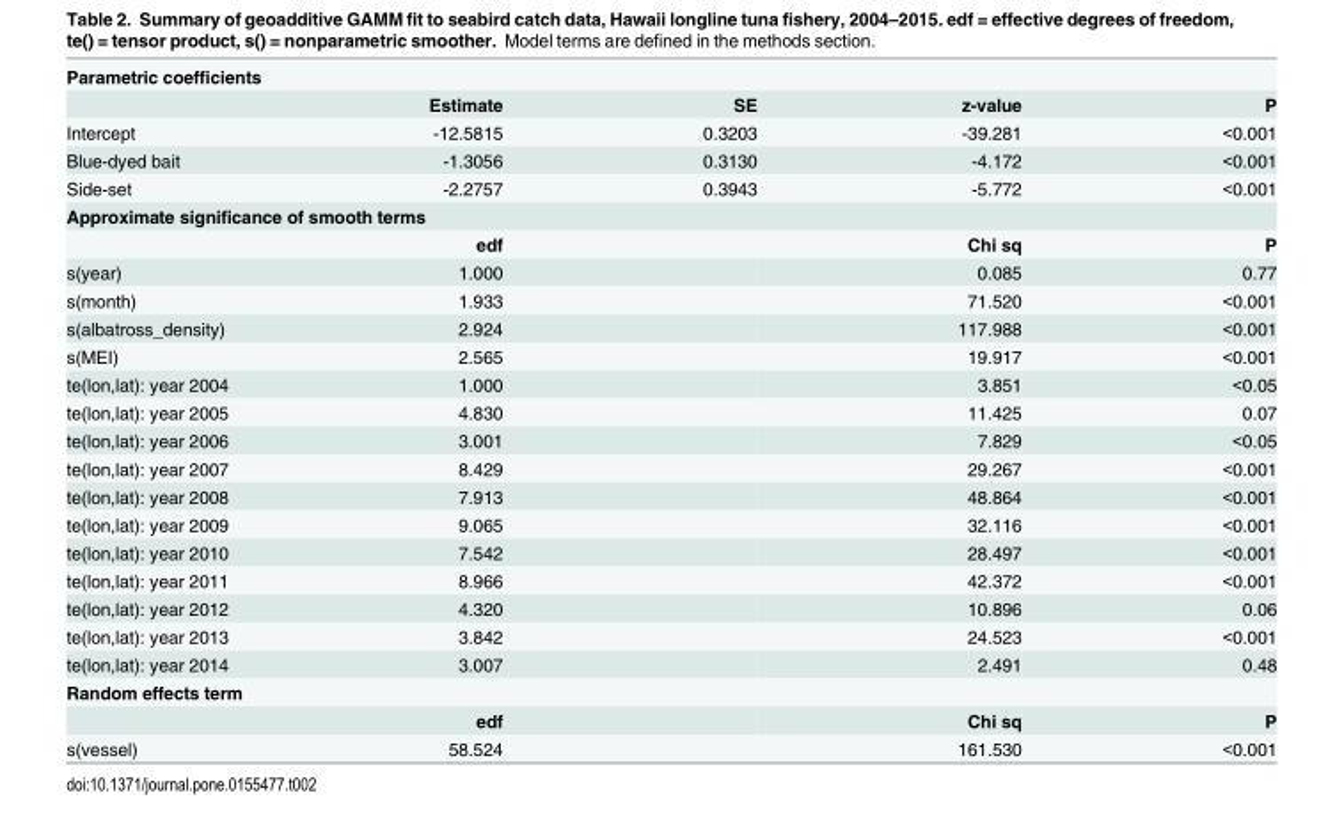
<table><tbody><tr><td colspan="5">Parametric coefficients</td></tr><tr><td></td><td>Estimate</td><td>SE</td><td>z-value</td><td>P</td></tr><tr><td>Intercept</td><td>-12.5815</td><td>0.3203</td><td>-39.281</td><td>&lt;0.001</td></tr><tr><td>Blue-dyed bait</td><td>-1.3056</td><td>0.3130</td><td>-4.172</td><td>&lt;0.001</td></tr><tr><td>Side-set</td><td>-2.2757</td><td>0.3943</td><td>-5.772</td><td>&lt;0.001</td></tr><tr><td colspan="5">Approximate significance of smooth terms</td></tr><tr><td></td><td>edf</td><td></td><td>Chi sq</td><td>P</td></tr><tr><td>s(year)</td><td>1.000</td><td></td><td>0.085</td><td>0.77</td></tr><tr><td>s(month)</td><td>1.933</td><td></td><td>71.520</td><td>&lt;0.001</td></tr><tr><td>s(albatross_density)</td><td>2.924</td><td></td><td>117.988</td><td>&lt;0.001</td></tr><tr><td>s(MEI)</td><td>2.565</td><td></td><td>19.917</td><td>&lt;0.001</td></tr><tr><td>te(lon,lat): year 2004</td><td>1.000</td><td></td><td>3.851</td><td>&lt;0.05</td></tr><tr><td>te(lon,lat): year 2005</td><td>4.830</td><td></td><td>11.425</td><td>0.07</td></tr><tr><td>te(lon,lat): year 2006</td><td>3.001</td><td></td><td>7.829</td><td>&lt;0.05</td></tr><tr><td>te(lon,lat): year 2007</td><td>8.429</td><td></td><td>29.267</td><td>&lt;0.001</td></tr><tr><td>te(lon,lat): year 2008</td><td>7.913</td><td></td><td>48.864</td><td>&lt;0.001</td></tr><tr><td>te(lon,lat): year 2009</td><td>9.065</td><td></td><td>32.116</td><td>&lt;0.001</td></tr><tr><td>te(lon,lat): year 2010</td><td>7.542</td><td></td><td>28.497</td><td>&lt;0.001</td></tr><tr><td>te(lon,lat): year 2011</td><td>8.966</td><td></td><td>42.372</td><td>&lt;0.001</td></tr><tr><td>te(lon,lat): year 2012</td><td>4.320</td><td></td><td>10.896</td><td>0.06</td></tr><tr><td>te(lon,lat): year 2013</td><td>3.842</td><td></td><td>24.523</td><td>&lt;0.001</td></tr><tr><td>te(lon,lat): year 2014</td><td>3.007</td><td></td><td>2.491</td><td>0.48</td></tr><tr><td colspan="5">Random effects term</td></tr><tr><td></td><td>edf</td><td></td><td>Chi sq</td><td>P</td></tr><tr><td>s(vessel)</td><td>58.524</td><td></td><td>161.530</td><td>&lt;0.001</td></tr></tbody></table>